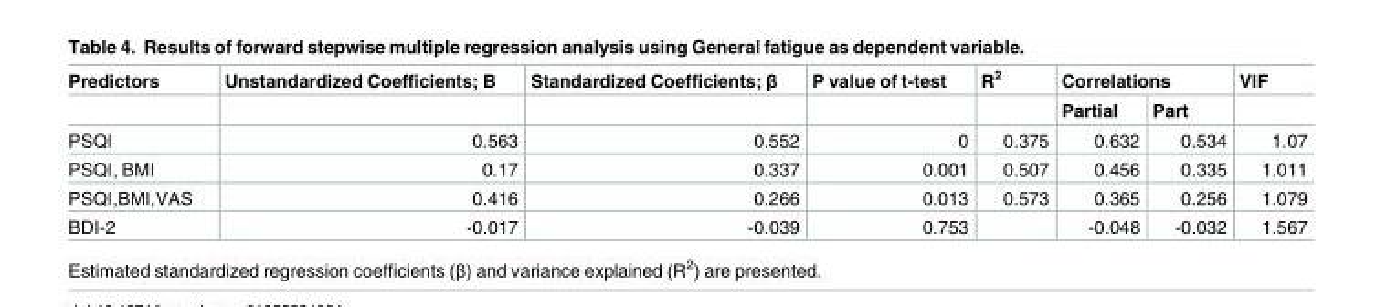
<table><thead><tr><td rowspan="2">Predictors</td><td rowspan="2">Unstandardized Coefficients; B</td><td rowspan="2">Standardized Coefficients; β</td><td rowspan="2">P value of t-test</td><td rowspan="2">R<sup>2</sup></td><td colspan="2">Correlations</td><td rowspan="2">VIF</td></tr><tr><td>Partial</td><td>Part</td></tr></thead><tbody><tr><td>PSQI</td><td>0.563</td><td>0.552</td><td>0</td><td>0.375</td><td>0.632</td><td>0.534</td><td>1.07</td></tr><tr><td>PSQI, BMI</td><td>0.17</td><td>0.337</td><td>0.001</td><td>0.507</td><td>0.456</td><td>0.335</td><td>1.011</td></tr><tr><td>PSQI,BMI,VAS</td><td>0.416</td><td>0.266</td><td>0.013</td><td>0.573</td><td>0.365</td><td>0.256</td><td>1.079</td></tr><tr><td>BDI-2</td><td>-0.017</td><td>-0.039</td><td>0.753</td><td></td><td>-0.048</td><td>-0.032</td><td>1.567</td></tr></tbody></table>